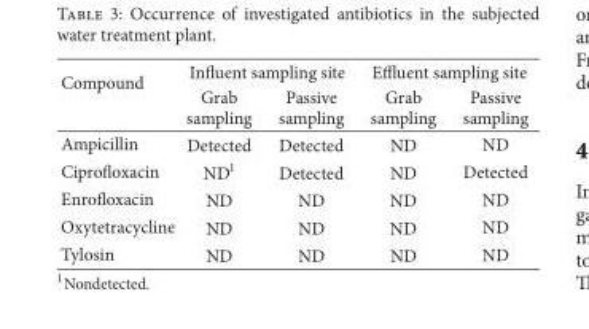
<table><thead><tr><td rowspan="2">Compound</td><td colspan="2">Influent sampling site</td><td colspan="2">Effluent sampling site</td></tr><tr><td>Grab sampling</td><td>Passive sampling</td><td>Grab sampling</td><td>Passive sampling</td></tr></thead><tbody><tr><td>Ampicillin</td><td>Detected</td><td>Detected</td><td>ND</td><td>ND</td></tr><tr><td>Ciprofloxacin</td><td>ND<sup>1</sup></td><td>Detected</td><td>ND</td><td>Detected</td></tr><tr><td>Enrofloxacin</td><td>ND</td><td>ND</td><td>ND</td><td>ND</td></tr><tr><td>Oxytetracycline</td><td>ND</td><td>ND</td><td>ND</td><td>ND</td></tr><tr><td>Tylosin</td><td>ND</td><td>ND</td><td>ND</td><td>ND</td></tr></tbody></table>